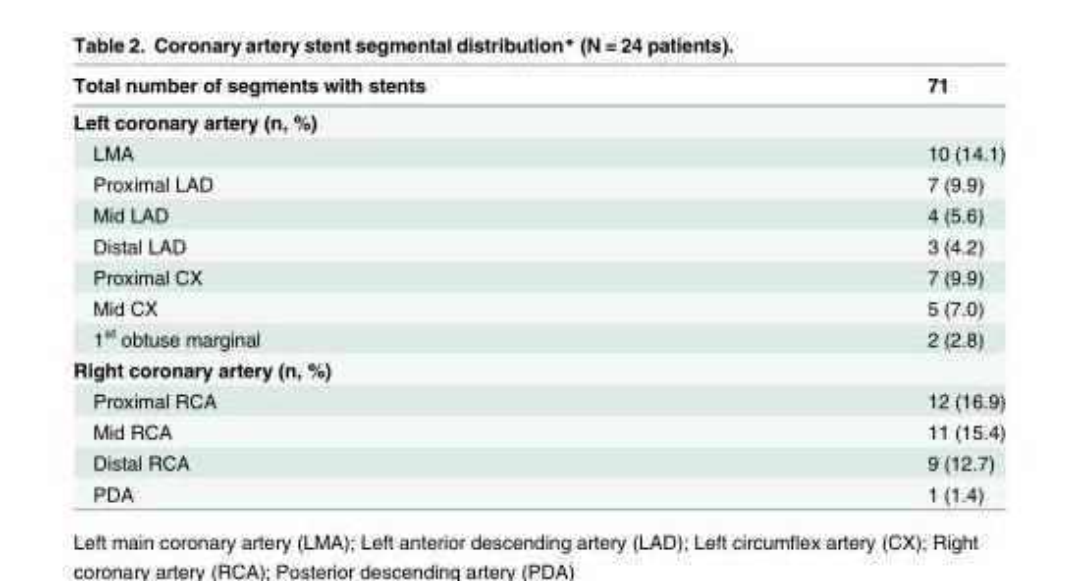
<table><thead><tr><td>Total number of segments with stents</td><td>71</td></tr></thead><tbody><tr><td colspan="2">Left coronary artery (n, %)</td></tr><tr><td>LMA</td><td>10 (14.1)</td></tr><tr><td>Proximal LAD</td><td>7 (9.9)</td></tr><tr><td>Mid LAD</td><td>4 (5.6)</td></tr><tr><td>Distal LAD</td><td>3 (4.2)</td></tr><tr><td>Proximal CX</td><td>7 (9.9)</td></tr><tr><td>Mid CX</td><td>5 (7.0)</td></tr><tr><td>1<sup>st</sup> obtuse marginal</td><td>2 (2.8)</td></tr><tr><td colspan="2">Right coronary artery (n, %)</td></tr><tr><td>Proximal RCA</td><td>12 (16.9)</td></tr><tr><td>Mid RCA</td><td>11 (15.4)</td></tr><tr><td>Distal RCA</td><td>9 (12.7)</td></tr><tr><td>PDA</td><td>1 (1.4)</td></tr></tbody></table>